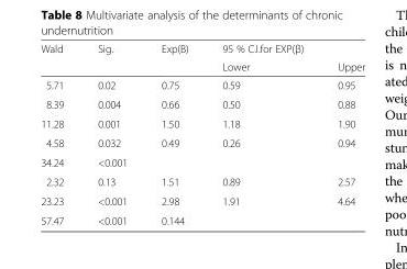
<table><thead><tr><td rowspan="2">Wald</td><td rowspan="2">Sig.</td><td rowspan="2">Exp(B)</td><td rowspan="2">95 % C.I.for EXP(β) Lower</td><td rowspan="2">Upper</td></tr><tr></tr></thead><tbody><tr><td>5.71</td><td>0.02</td><td>0.75</td><td>0.59</td><td>0.95</td></tr><tr><td>8.39</td><td>0.004</td><td>0.66</td><td>0.50</td><td>0.88</td></tr><tr><td>11.28</td><td>0.001</td><td>1.50</td><td>1.18</td><td>1.90</td></tr><tr><td>4.58</td><td>0.032</td><td>0.49</td><td>0.26</td><td>0.94</td></tr><tr><td>34.24</td><td>&lt;0.001</td><td></td><td></td><td></td></tr><tr><td>2.32</td><td>0.13</td><td>1.51</td><td>0.89</td><td>2.57</td></tr><tr><td>23.23</td><td>&lt;0.001</td><td>2.98</td><td>1.91</td><td>4.64</td></tr><tr><td>57.47</td><td>&lt;0.001</td><td>0.144</td><td></td><td></td></tr></tbody></table>